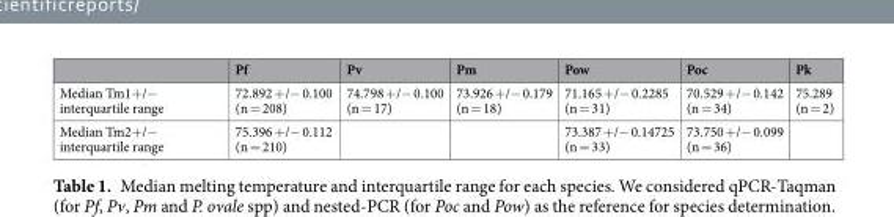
<table><thead><tr><td></td><td>Pf</td><td>Pv</td><td>Pm</td><td>Pow</td><td>Poc</td><td>Pk</td></tr></thead><tbody><tr><td>Median Tm1+/− interquartile range</td><td>72.892 +/− 0.100 (n = 208)</td><td>74.798 +/− 0.100 (n = 17)</td><td>73.926 +/− 0.179 (n = 18)</td><td>71.165 +/− 0.2285 (n = 31)</td><td>70.529 +/− 0.142 (n = 34)</td><td>75.289 (n = 2)</td></tr><tr><td>Median Tm2+/− interquartile range</td><td>75.396 +/− 0.112 (n = 210)</td><td></td><td></td><td>73.387 +/− 0.14725 (n = 33)</td><td>73.750 +/− 0.099 (n = 36)</td><td></td></tr></tbody></table>